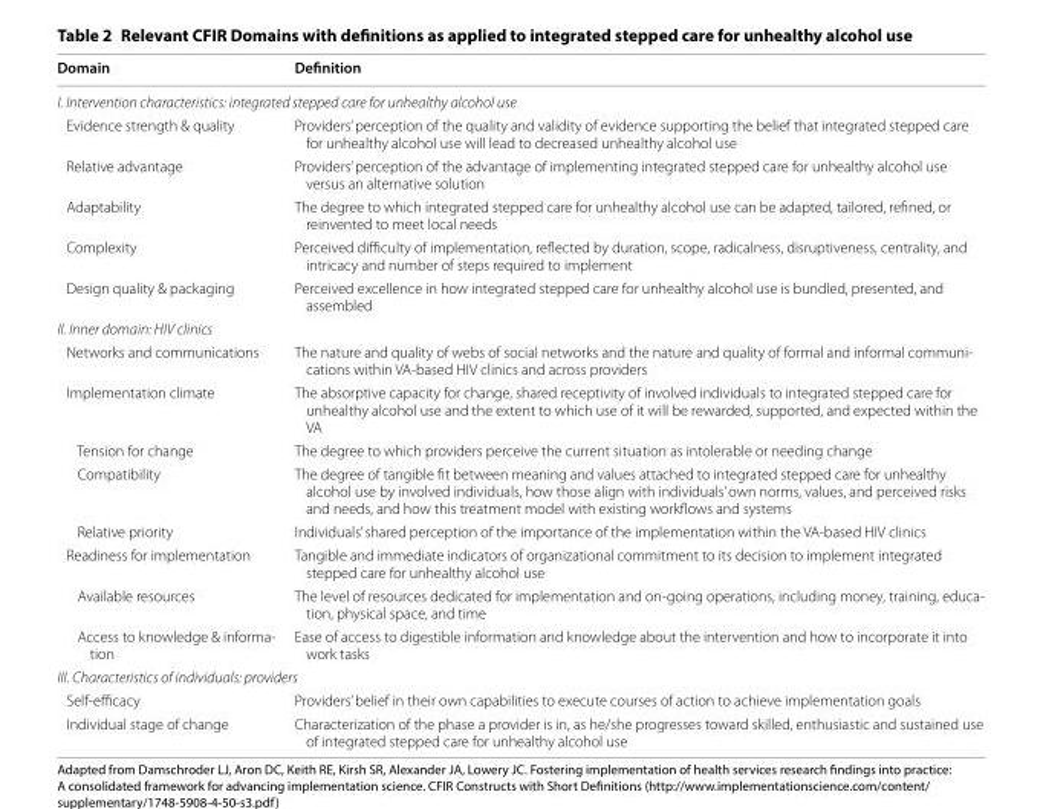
<table><thead><tr><td>Domain</td><td>Definition</td></tr></thead><tbody><tr><td colspan="2">I. Intervention characteristics: integrated stepped care for unhealthy alcohol use</td></tr><tr><td>Evidence strength &amp; quality</td><td>Providers’ perception of the quality and validity of evidence supporting the belief that integrated stepped care for unhealthy alcohol use will lead to decreased unhealthy alcohol use</td></tr><tr><td>Relative advantage</td><td>Providers’ perception of the advantage of implementing integrated stepped care for unhealthy alcohol use versus an alternative solution</td></tr><tr><td>Adaptability</td><td>The degree to which integrated stepped care for unhealthy alcohol use can be adapted, tailored, refined, or reinvented to meet local needs</td></tr><tr><td>Complexity</td><td>Perceived difficulty of implementation, reflected by duration, scope, radicalness, disruptiveness, centrality, and intricacy and number of steps required to implement</td></tr><tr><td>Design quality &amp; packaging</td><td>Perceived excellence in how integrated stepped care for unhealthy alcohol use is bundled, presented, and assembled</td></tr><tr><td colspan="2">II. Inner domain: HIV clinics</td></tr><tr><td>Networks and communications</td><td>The nature and quality of webs of social networks and the nature and quality of formal and informal communi- cations within VA-based HIV clinics and across providers</td></tr><tr><td>Implementation climate</td><td>The absorptive capacity for change, shared receptivity of involved individuals to integrated stepped care for unhealthy alcohol use and the extent to which use of it will be rewarded, supported, and expected within the VA</td></tr><tr><td>Tension for change</td><td>The degree to which providers perceive the current situation as intolerable or needing change</td></tr><tr><td>Compatibility</td><td>The degree of tangible fit between meaning and values attached to integrated stepped care for unhealthy alcohol use by involved individuals, how those align with individuals’ own norms, values, and perceived risks and needs, and how this treatment model with existing workflows and systems</td></tr><tr><td>Relative priority</td><td>Individuals’ shared perception of the importance of the implementation within the VA-based HIV clinics</td></tr><tr><td>Readiness for implementation</td><td>Tangible and immediate indicators of organizational commitment to its decision to implement integrated stepped care for unhealthy alcohol use</td></tr><tr><td>Available resources</td><td>The level of resources dedicated for implementation and on-going operations, including money, training, educa- tion, physical space, and time</td></tr><tr><td>Access to knowledge &amp; informa- tion</td><td>Ease of access to digestible information and knowledge about the intervention and how to incorporate it into work tasks</td></tr><tr><td colspan="2">III. Characteristics of individuals: providers</td></tr><tr><td>Self-efficacy</td><td>Providers’ belief in their own capabilities to execute courses of action to achieve implementation goals</td></tr><tr><td>Individual stage of change</td><td>Characterization of the phase a provider is in, as he/she progresses toward skilled, enthusiastic and sustained use of integrated stepped care for unhealthy alcohol use</td></tr></tbody></table>